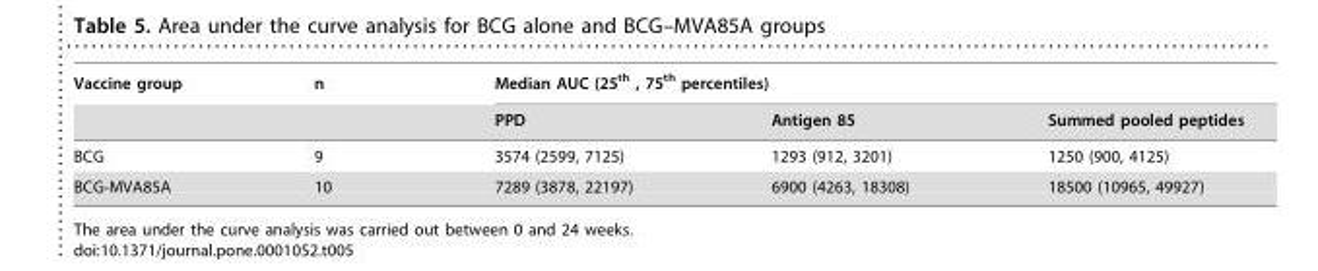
<table><thead><tr><td rowspan="2">Vaccine group</td><td rowspan="2">n</td><td colspan="3">Median AUC (25<sup>th</sup> , 75<sup>th</sup> percentiles)</td></tr><tr><td>PPD</td><td>Antigen 85</td><td>Summed pooled peptides</td></tr></thead><tbody><tr><td>BCG</td><td>9</td><td>3574 (2599, 7125)</td><td>1293 (912, 3201)</td><td>1250 (900, 4125)</td></tr><tr><td>BCG-MVA85A</td><td>10</td><td>7289 (3878, 22197)</td><td>6900 (4263, 18308)</td><td>18500 (10965, 49927)</td></tr></tbody></table>